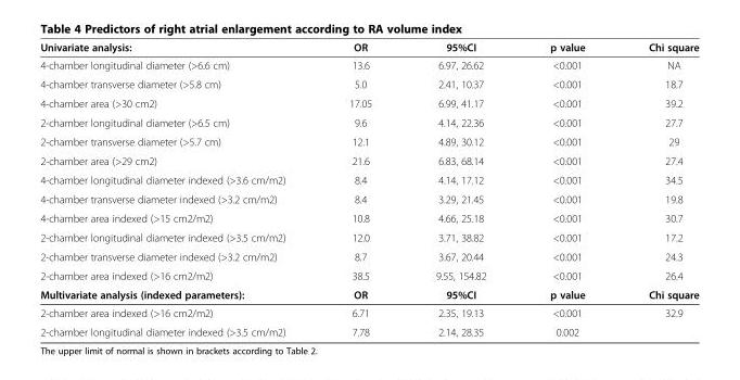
<table><thead><tr><td>Univariate analysis:</td><td>OR</td><td>95%CI</td><td>p value</td><td>Chi square</td></tr></thead><tbody><tr><td>4-chamber longitudinal diameter (&gt;6.6 cm)</td><td>13.6</td><td>6.97, 26.62</td><td>&lt;0.001</td><td>NA</td></tr><tr><td>4-chamber transverse diameter (&gt;5.8 cm)</td><td>5.0</td><td>2.41, 10.37</td><td>&lt;0.001</td><td>18.7</td></tr><tr><td>4-chamber area (&gt;30 cm2)</td><td>17.05</td><td>6.99, 41.17</td><td>&lt;0.001</td><td>39.2</td></tr><tr><td>2-chamber longitudinal diameter (&gt;6.5 cm)</td><td>9.6</td><td>4.14, 22.36</td><td>&lt;0.001</td><td>27.7</td></tr><tr><td>2-chamber transverse diameter (&gt;5.7 cm)</td><td>12.1</td><td>4.89, 30.12</td><td>&lt;0.001</td><td>29</td></tr><tr><td>2-chamber area (&gt;29 cm2)</td><td>21.6</td><td>6.83, 68.14</td><td>&lt;0.001</td><td>27.4</td></tr><tr><td>4-chamber longitudinal diameter indexed (&gt;3.6 cm/m2)</td><td>8.4</td><td>4.14, 17.12</td><td>&lt;0.001</td><td>34.5</td></tr><tr><td>4-chamber transverse diameter indexed (&gt;3.2 cm/m2)</td><td>8.4</td><td>3.29, 21.45</td><td>&lt;0.001</td><td>19.8</td></tr><tr><td>4-chamber area indexed (&gt;15 cm2/m2)</td><td>10.8</td><td>4.66, 25.18</td><td>&lt;0.001</td><td>30.7</td></tr><tr><td>2-chamber longitudinal diameter indexed (&gt;3.5 cm/m2)</td><td>12.0</td><td>3.71, 38.82</td><td>&lt;0.001</td><td>17.2</td></tr><tr><td>2-chamber transverse diameter indexed (&gt;3.2 cm/m2)</td><td>8.7</td><td>3.67, 20.44</td><td>&lt;0.001</td><td>24.3</td></tr><tr><td>2-chamber area indexed (&gt;16 cm2/m2)</td><td>38.5</td><td>9.55, 154.82</td><td>&lt;0.001</td><td>26.4</td></tr><tr><td>Multivariate analysis (indexed parameters):</td><td>OR</td><td>95%CI</td><td>p value</td><td>Chi square</td></tr><tr><td>2-chamber area indexed (&gt;16 cm2/m2)</td><td>6.71</td><td>2.35, 19.13</td><td>&lt;0.001</td><td>32.9</td></tr><tr><td>2-chamber longitudinal diameter indexed (&gt;3.5 cm/m2)</td><td>7.78</td><td>2.14, 28.35</td><td>0.002</td><td></td></tr></tbody></table>